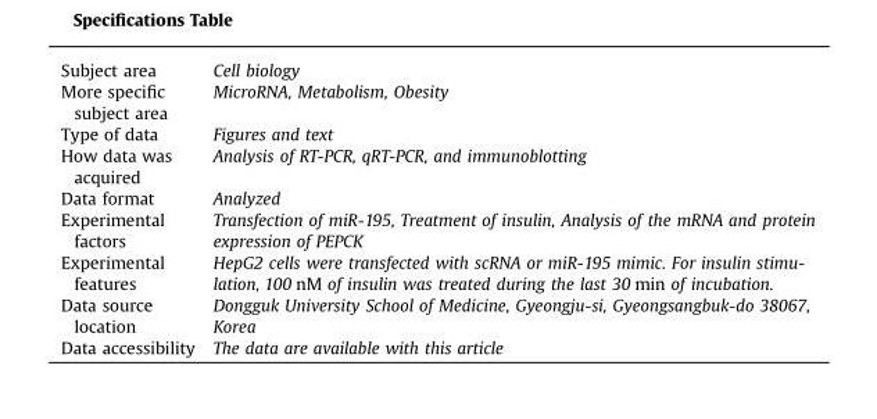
<table><thead><tr><td>Subject area</td><td>Cell biology</td></tr></thead><tbody><tr><td>More specific subject area</td><td>MicroRNA, Metabolism, Obesity</td></tr><tr><td>Type of data</td><td>Figures and text</td></tr><tr><td>How data was acquired</td><td>Analysis of RT-PCR, qRT-PCR, and immunoblotting</td></tr><tr><td>Data format</td><td>Analyzed</td></tr><tr><td>Experimental factors</td><td>Transfection of miR-195, Treatment of insulin, Analysis of the mRNA and protein expression of PEPCK</td></tr><tr><td>Experimental features</td><td>HepG2 cells were transfected with scRNA or miR-195 mimic. For insulin stimu- lation, 100 nM of insulin was treated during the last 30 min of incubation.</td></tr><tr><td>Data source location</td><td>Dongguk University School of Medicine, Gyeongju-si, Gyeongsangbuk-do 38067, Korea</td></tr><tr><td>Data accessibility</td><td>The data are available with this article</td></tr></tbody></table>